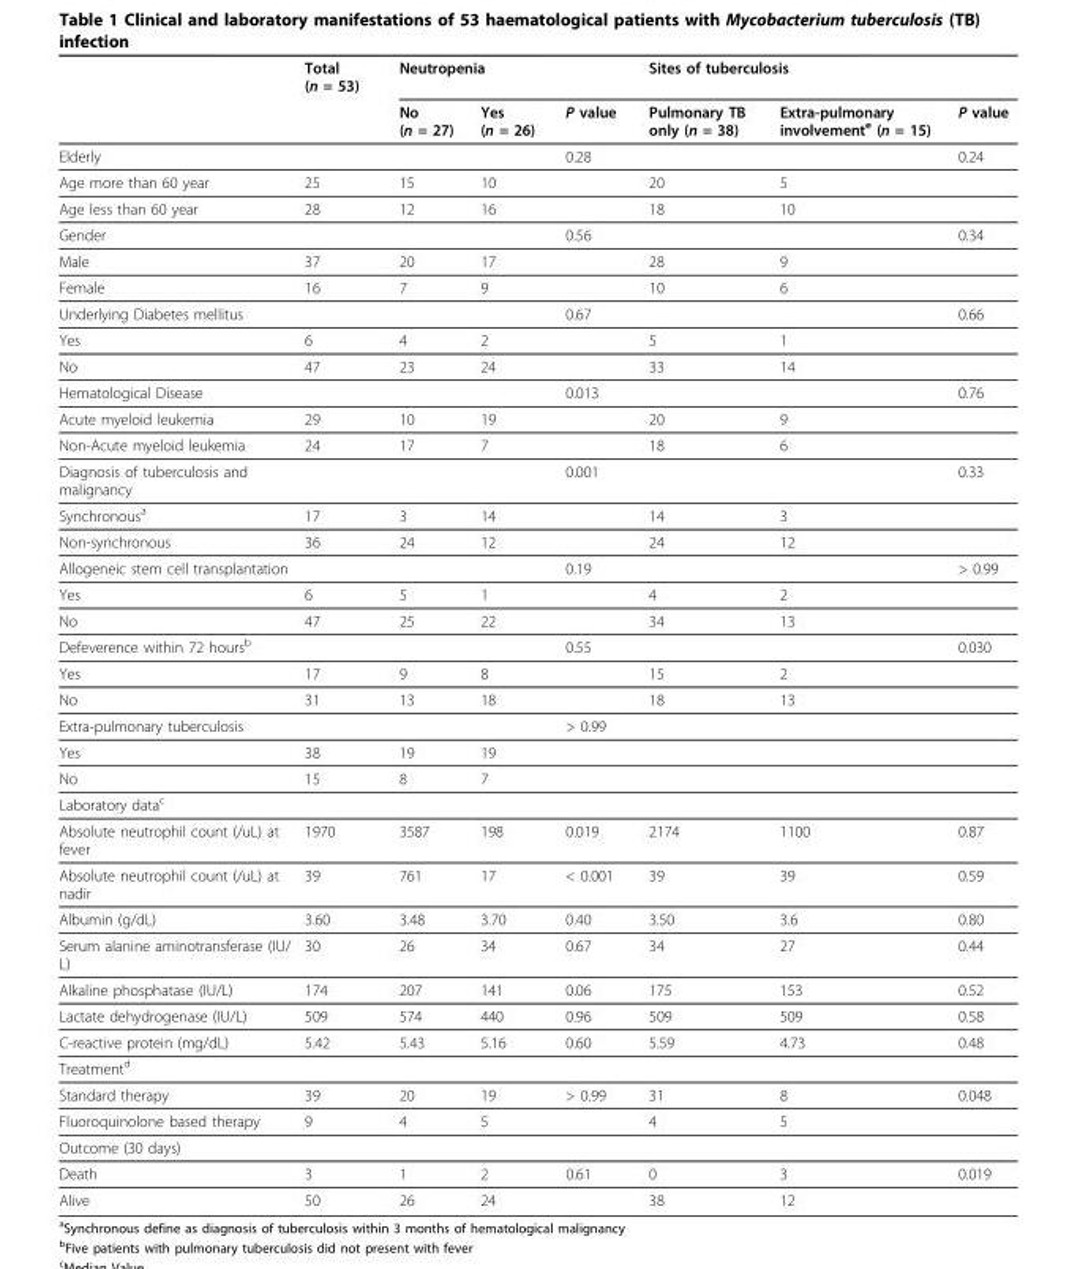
<table><thead><tr><td rowspan="2"></td><td rowspan="2">Total (n = 53)</td><td colspan="3">Neutropenia</td><td colspan="3">Sites of tuberculosis</td></tr><tr><td>No (n = 27)</td><td>Yes (n = 26)</td><td>P value</td><td>Pulmonary TB only (n = 38)</td><td>Extra-pulmonary involvement<sup>e</sup> (n = 15)</td><td>P value</td></tr></thead><tbody><tr><td>Elderly</td><td></td><td></td><td></td><td>0.28</td><td></td><td></td><td>0.24</td></tr><tr><td>Age more than 60 year</td><td>25</td><td>15</td><td>10</td><td></td><td>20</td><td>5</td><td></td></tr><tr><td>Age less than 60 year</td><td>28</td><td>12</td><td>16</td><td></td><td>18</td><td>10</td><td></td></tr><tr><td>Gender</td><td></td><td></td><td></td><td>0.56</td><td></td><td></td><td>0.34</td></tr><tr><td>Male</td><td>37</td><td>20</td><td>17</td><td></td><td>28</td><td>9</td><td></td></tr><tr><td>Female</td><td>16</td><td>7</td><td>9</td><td></td><td>10</td><td>6</td><td></td></tr><tr><td>Underlying Diabetes mellitus</td><td></td><td></td><td></td><td>0.67</td><td></td><td></td><td>0.66</td></tr><tr><td>Yes</td><td>6</td><td>4</td><td>2</td><td></td><td>5</td><td>1</td><td></td></tr><tr><td>No</td><td>47</td><td>23</td><td>24</td><td></td><td>33</td><td>14</td><td></td></tr><tr><td>Hematological Disease</td><td></td><td></td><td></td><td>0.013</td><td></td><td></td><td>0.76</td></tr><tr><td>Acute myeloid leukemia</td><td>29</td><td>10</td><td>19</td><td></td><td>20</td><td>9</td><td></td></tr><tr><td>Non-Acute myeloid leukemia</td><td>24</td><td>17</td><td>7</td><td></td><td>18</td><td>6</td><td></td></tr><tr><td>Diagnosis of tuberculosis and malignancy</td><td></td><td></td><td></td><td>0.001</td><td></td><td></td><td>0.33</td></tr><tr><td>Synchronous<sup>a</sup></td><td>17</td><td>3</td><td>14</td><td></td><td>14</td><td>3</td><td></td></tr><tr><td>Non-synchronous</td><td>36</td><td>24</td><td>12</td><td></td><td>24</td><td>12</td><td></td></tr><tr><td>Allogeneic stem cell transplantation</td><td></td><td></td><td></td><td>0.19</td><td></td><td></td><td>&gt; 0.99</td></tr><tr><td>Yes</td><td>6</td><td>5</td><td>1</td><td></td><td>4</td><td>2</td><td></td></tr><tr><td>No</td><td>47</td><td>25</td><td>22</td><td></td><td>34</td><td>13</td><td></td></tr><tr><td>Defeverence within 72 hours<sup>b</sup></td><td></td><td></td><td></td><td>0.55</td><td></td><td></td><td>0.030</td></tr><tr><td>Yes</td><td>17</td><td>9</td><td>8</td><td></td><td>15</td><td>2</td><td></td></tr><tr><td>No</td><td>31</td><td>13</td><td>18</td><td></td><td>18</td><td>13</td><td></td></tr><tr><td>Extra-pulmonary tuberculosis</td><td></td><td></td><td></td><td>&gt; 0.99</td><td></td><td></td><td></td></tr><tr><td>Yes</td><td>38</td><td>19</td><td>19</td><td></td><td></td><td></td><td></td></tr><tr><td>No</td><td>15</td><td>8</td><td>7</td><td></td><td></td><td></td><td></td></tr><tr><td colspan="8">Laboratory data<sup>c</sup></td></tr><tr><td>Absolute neutrophil count (/uL) at fever</td><td>1970</td><td>3587</td><td>198</td><td>0.019</td><td>2174</td><td>1100</td><td>0.87</td></tr><tr><td>Absolute neutrophil count (/uL) at nadir</td><td>39</td><td>761</td><td>17</td><td>&lt; 0.001</td><td>39</td><td>39</td><td>0.59</td></tr><tr><td>Albumin (g/dL)</td><td>3.60</td><td>3.48</td><td>3.70</td><td>0.40</td><td>3.50</td><td>3.6</td><td>0.80</td></tr><tr><td>Serum alanine aminotransferase (IU/ L)</td><td>30</td><td>26</td><td>34</td><td>0.67</td><td>34</td><td>27</td><td>0.44</td></tr><tr><td>Alkaline phosphatase (IU/L)</td><td>174</td><td>207</td><td>141</td><td>0.06</td><td>175</td><td>153</td><td>0.52</td></tr><tr><td>Lactate dehydrogenase (IU/L)</td><td>509</td><td>574</td><td>440</td><td>0.96</td><td>509</td><td>509</td><td>0.58</td></tr><tr><td>C-reactive protein (mg/dL)</td><td>5.42</td><td>5.43</td><td>5.16</td><td>0.60</td><td>5.59</td><td>4.73</td><td>0.48</td></tr><tr><td colspan="8">Treatment<sup>d</sup></td></tr><tr><td>Standard therapy</td><td>39</td><td>20</td><td>19</td><td>&gt; 0.99</td><td>31</td><td>8</td><td>0.048</td></tr><tr><td>Fluoroquinolone based therapy</td><td>9</td><td>4</td><td>5</td><td></td><td>4</td><td>5</td><td></td></tr><tr><td colspan="8">Outcome (30 days)</td></tr><tr><td>Death</td><td>3</td><td>1</td><td>2</td><td>0.61</td><td>0</td><td>3</td><td>0.019</td></tr><tr><td>Alive</td><td>50</td><td>26</td><td>24</td><td></td><td>38</td><td>12</td><td></td></tr></tbody></table>